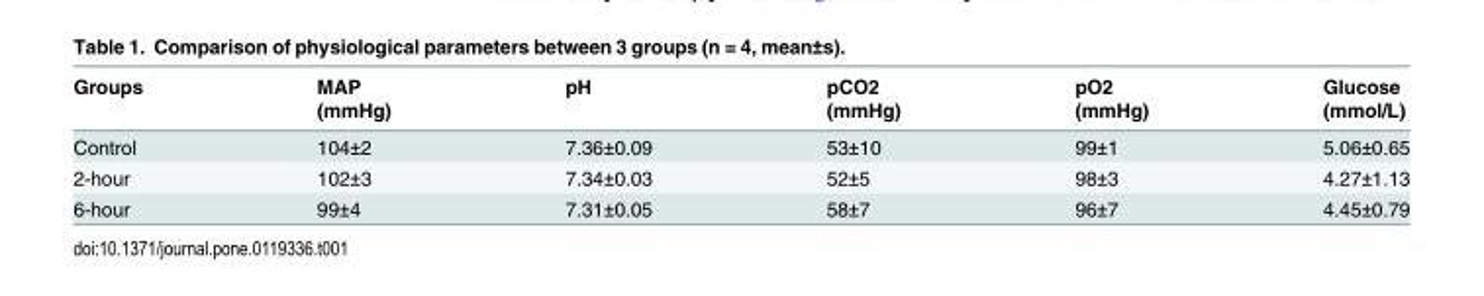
<table><thead><tr><td rowspan="2">Groups</td><td rowspan="2">MAP (mmHg)</td><td rowspan="2">pH</td><td rowspan="2">pCO2 (mmHg)</td><td rowspan="2">pO2 (mmHg)</td><td rowspan="2">Glucose (mmol/L)</td></tr><tr></tr></thead><tbody><tr><td>Control</td><td>104±2</td><td>7.36±0.09</td><td>53±10</td><td>99±1</td><td>5.06±0.65</td></tr><tr><td>2-hour</td><td>102±3</td><td>7.34±0.03</td><td>52±5</td><td>98±3</td><td>4.27±1.13</td></tr><tr><td>6-hour</td><td>99±4</td><td>7.31±0.05</td><td>58±7</td><td>96±7</td><td>4.45±0.79</td></tr></tbody></table>